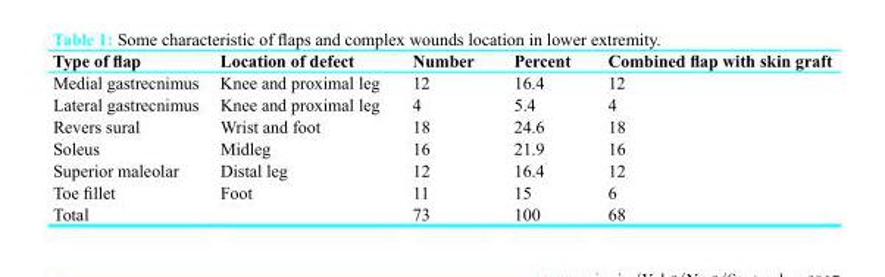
<table><thead><tr><td>Type of flap</td><td>Location of defect</td><td>Number</td><td>Percent</td><td>Combined flap with skin graft</td></tr></thead><tbody><tr><td>Medial gastrecnimus</td><td>Knee and proximal leg</td><td>12</td><td>16.4</td><td>12</td></tr><tr><td>Lateral gastrecnimus</td><td>Knee and proximal leg</td><td>4</td><td>5.4</td><td>4</td></tr><tr><td>Revers sural</td><td>Wrist and foot</td><td>18</td><td>24.6</td><td>18</td></tr><tr><td>Soleus</td><td>Midleg</td><td>16</td><td>21.9</td><td>16</td></tr><tr><td>Superior maleolar</td><td>Distal leg</td><td>12</td><td>16.4</td><td>12</td></tr><tr><td>Toe fillet</td><td>Foot</td><td>11</td><td>15</td><td>6</td></tr><tr><td>Total</td><td></td><td>73</td><td>100</td><td>68</td></tr></tbody></table>